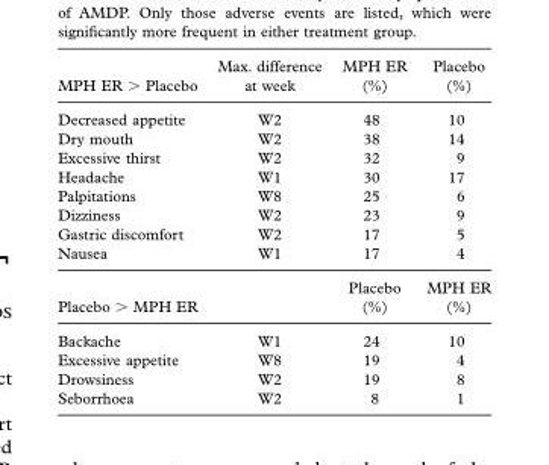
<table><thead><tr><td>MPH ER &gt; Placebo</td><td>Max. difference at week</td><td>MPH ER (%)</td><td>Placebo (%)</td></tr></thead><tbody><tr><td>Decreased appetite</td><td>W2</td><td>48</td><td>10</td></tr><tr><td>Dry mouth</td><td>W2</td><td>38</td><td>14</td></tr><tr><td>Excessive thirst</td><td>W2</td><td>32</td><td>9</td></tr><tr><td>Headache</td><td>W1</td><td>30</td><td>17</td></tr><tr><td>Palpitations</td><td>W8</td><td>25</td><td>6</td></tr><tr><td>Dizziness</td><td>W2</td><td>23</td><td>9</td></tr><tr><td>Gastric discomfort</td><td>W2</td><td>17</td><td>5</td></tr><tr><td>Nausea</td><td>W1</td><td>17</td><td>4</td></tr><tr><td>Placebo &gt; MPH ER</td><td></td><td>Placebo (%)</td><td>MPH ER (%)</td></tr><tr><td>Backache</td><td>W1</td><td>24</td><td>10</td></tr><tr><td>Excessive appetite</td><td>W8</td><td>19</td><td>4</td></tr><tr><td>Drowsiness</td><td>W2</td><td>19</td><td>8</td></tr><tr><td>Seborrhoea</td><td>W2</td><td>8</td><td>1</td></tr></tbody></table>